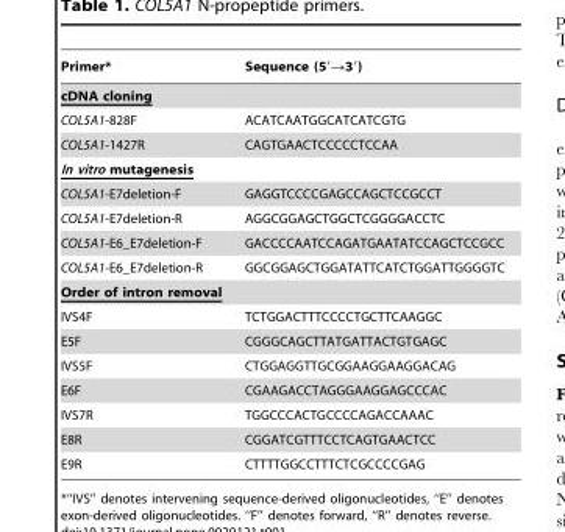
<table><thead><tr><td>Primer*</td><td>Sequence (5′→3′)</td></tr></thead><tbody><tr><td colspan="2">cDNA cloning</td></tr><tr><td>COL5A1-828F</td><td>ACATCAATGGCATCATCGTG</td></tr><tr><td>COL5A1-1427R</td><td>CAGTGAACTCCCCCTCCAA</td></tr><tr><td colspan="2">In vitro mutagenesis</td></tr><tr><td>COL5A1-E7deletion-F</td><td>GAGGTCCCCGAGCCAGCTCCGCCT</td></tr><tr><td>COL5A1-E7deletion-R</td><td>AGGCGGAGCTGGCTCGGGGACCTC</td></tr><tr><td>COL5A1-E6_E7deletion-F</td><td>GACCCCAATCCAGATGAATATCCAGCTCCGCC</td></tr><tr><td>COL5A1-E6_E7deletion-R</td><td>GGCGGAGCTGGATATTCATCTGGATTGGGGTC</td></tr><tr><td colspan="2">Order of intron removal</td></tr><tr><td>IVS4F</td><td>TCTGGACTTTCCCCTGCTTCAAGGC</td></tr><tr><td>E5F</td><td>CGGGCAGCTTATGATTACTGTGAGC</td></tr><tr><td>IVS5F</td><td>CTGGAGGTTGCGGAAGGAAGGACAG</td></tr><tr><td>E6F</td><td>CGAAGACCTAGGGAAGGAGCCCAC</td></tr><tr><td>IVS7R</td><td>TGGCCCACTGCCCCAGACCAAAC</td></tr><tr><td>E8R</td><td>CGGATCGTTTCCTCAGTGAACTCC</td></tr><tr><td>E9R</td><td>CTTTTGGCCTTTCTCGCCCCGAG</td></tr></tbody></table>